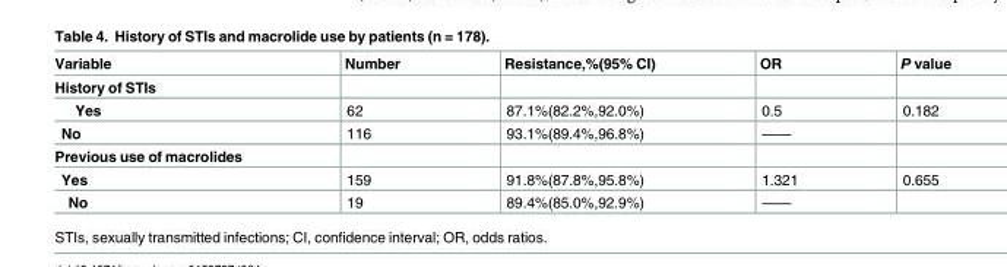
<table><thead><tr><td>Variable</td><td>Number</td><td>Resistance,%(95% CI)</td><td>OR</td><td>P value</td></tr></thead><tbody><tr><td colspan="5">History of STIs</td></tr><tr><td>Yes</td><td>62</td><td>87.1%(82.2%,92.0%)</td><td>0.5</td><td>0.182</td></tr><tr><td>No</td><td>116</td><td>93.1%(89.4%,96.8%)</td><td>——</td><td></td></tr><tr><td colspan="5">Previous use of macrolides</td></tr><tr><td>Yes</td><td>159</td><td>91.8%(87.8%,95.8%)</td><td>1.321</td><td>0.655</td></tr><tr><td>No</td><td>19</td><td>89.4%(85.0%,92.9%)</td><td>——</td><td></td></tr></tbody></table>